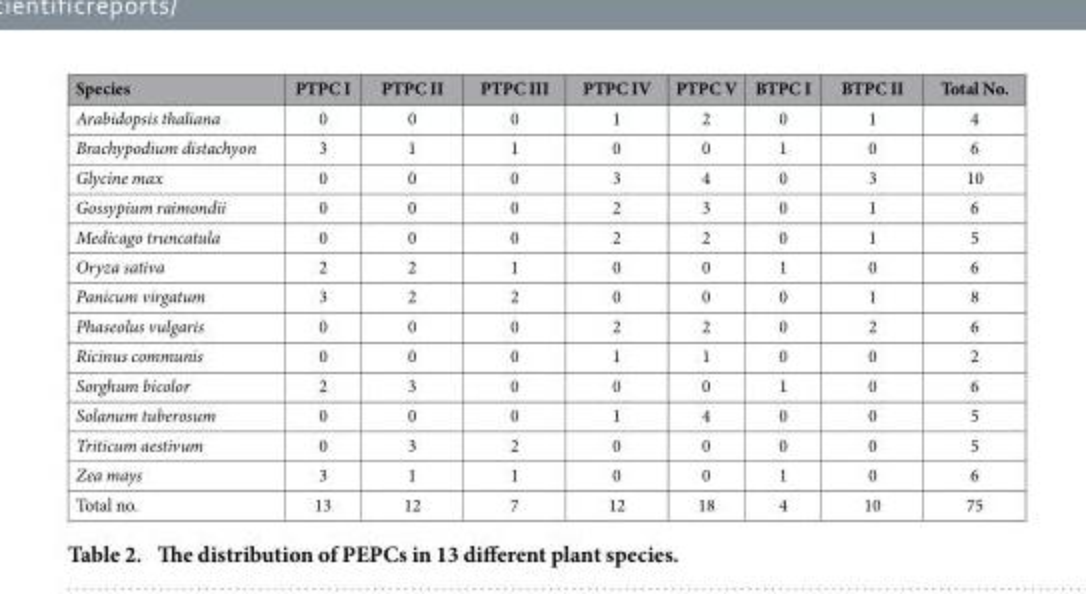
<table><thead><tr><td>Species</td><td>PTPC I</td><td>PTPC II</td><td>PTPC III</td><td>PTPC IV</td><td>PTPC V</td><td>BTPC I</td><td>BTPC II</td><td>Total No.</td></tr></thead><tbody><tr><td>Arabidopsis thaliana</td><td>0</td><td>0</td><td>0</td><td>1</td><td>2</td><td>0</td><td>1</td><td>4</td></tr><tr><td>Brachypodium distachyon</td><td>3</td><td>1</td><td>1</td><td>0</td><td>0</td><td>1</td><td>0</td><td>6</td></tr><tr><td>Glycine max</td><td>0</td><td>0</td><td>0</td><td>3</td><td>4</td><td>0</td><td>3</td><td>10</td></tr><tr><td>Gossypium raimondii</td><td>0</td><td>0</td><td>0</td><td>2</td><td>3</td><td>0</td><td>1</td><td>6</td></tr><tr><td>Medicago truncatula</td><td>0</td><td>0</td><td>0</td><td>2</td><td>2</td><td>0</td><td>1</td><td>5</td></tr><tr><td>Oryza sativa</td><td>2</td><td>2</td><td>1</td><td>0</td><td>0</td><td>1</td><td>0</td><td>6</td></tr><tr><td>Panicum virgatum</td><td>3</td><td>2</td><td>2</td><td>0</td><td>0</td><td>0</td><td>1</td><td>8</td></tr><tr><td>Phaseolus vulgaris</td><td>0</td><td>0</td><td>0</td><td>2</td><td>2</td><td>0</td><td>2</td><td>6</td></tr><tr><td>Ricinus communis</td><td>0</td><td>0</td><td>0</td><td>1</td><td>1</td><td>0</td><td>0</td><td>2</td></tr><tr><td>Sorghum bicolor</td><td>2</td><td>3</td><td>0</td><td>0</td><td>0</td><td>1</td><td>0</td><td>6</td></tr><tr><td>Solanum tuberosum</td><td>0</td><td>0</td><td>0</td><td>1</td><td>4</td><td>0</td><td>0</td><td>5</td></tr><tr><td>Triticum aestivum</td><td>0</td><td>3</td><td>2</td><td>0</td><td>0</td><td>0</td><td>0</td><td>5</td></tr><tr><td>Zea mays</td><td>3</td><td>1</td><td>1</td><td>0</td><td>0</td><td>1</td><td>0</td><td>6</td></tr><tr><td>Total no.</td><td>13</td><td>12</td><td>7</td><td>12</td><td>18</td><td>4</td><td>10</td><td>75</td></tr></tbody></table>